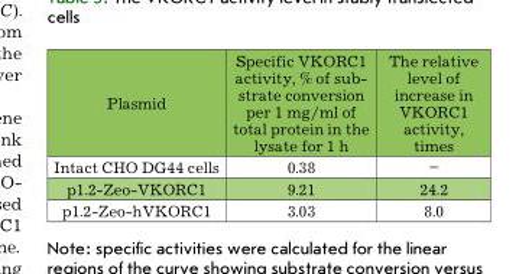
<table><thead><tr><td>Plasmid</td><td>Specific VKORC1 activity, % of sub- strate conversion per 1 mg/ml of total protein in the lysate for 1 h</td><td>The relative level of increase in VKORC1 activity, times</td></tr></thead><tbody><tr><td>Intact CHO DG44 cells</td><td>0.38</td><td>–</td></tr><tr><td>p1.2-Zeo-VKORC1</td><td>9.21</td><td>24.2</td></tr><tr><td>p1.2-Zeo-hVKORC1</td><td>3.03</td><td>8.0</td></tr></tbody></table>